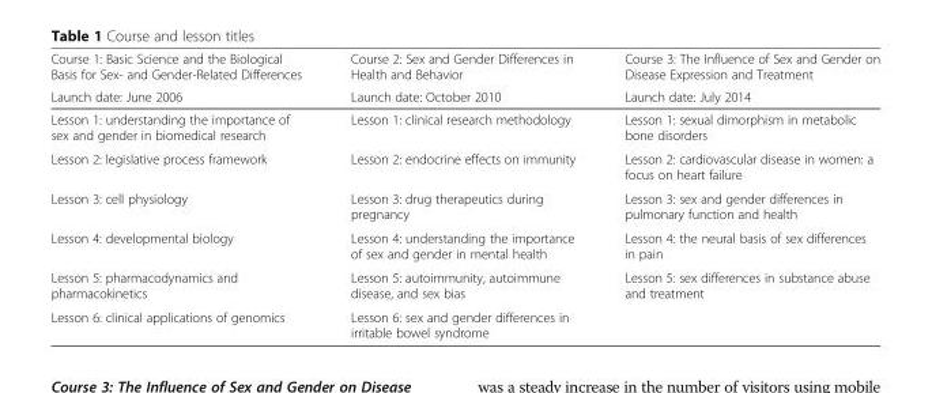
<table><thead><tr><td rowspan="2">Course 1: Basic Science and the Biological Basis for Sex- and Gender-Related Differences Launch date: June 2006</td><td rowspan="2">Course 2: Sex and Gender Differences in Health and Behavior Launch date: October 2010</td><td rowspan="2">Course 3: The Influence of Sex and Gender on Disease Expression and Treatment Launch date: July 2014</td></tr><tr></tr></thead><tbody><tr><td>Lesson 1: understanding the importance of sex and gender in biomedical research</td><td>Lesson 1: clinical research methodology</td><td>Lesson 1: sexual dimorphism in metabolic bone disorders</td></tr><tr><td>Lesson 2: legislative process framework</td><td>Lesson 2: endocrine effects on immunity</td><td>Lesson 2: cardiovascular disease in women: a focus on heart failure</td></tr><tr><td>Lesson 3: cell physiology</td><td>Lesson 3: drug therapeutics during pregnancy</td><td>Lesson 3: sex and gender differences in pulmonary function and health</td></tr><tr><td>Lesson 4: developmental biology</td><td>Lesson 4: understanding the importance of sex and gender in mental health</td><td>Lesson 4: the neural basis of sex differences in pain</td></tr><tr><td>Lesson 5: pharmacodynamics and pharmacokinetics</td><td>Lesson 5: autoimmunity, autoimmune disease, and sex bias</td><td>Lesson 5: sex differences in substance abuse and treatment</td></tr><tr><td>Lesson 6: clinical applications of genomics</td><td>Lesson 6: sex and gender differences in irritable bowel syndrome</td><td></td></tr></tbody></table>